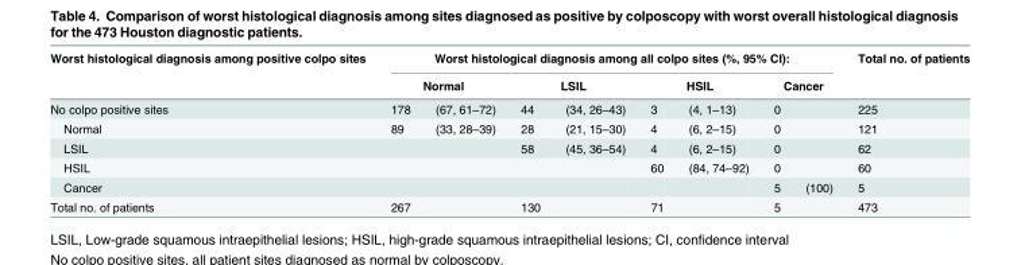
<table><thead><tr><td rowspan="3">Worst histological diagnosis among positive colpo sites No colpo positive sites</td><td colspan="8">Worst histological diagnosis among all colpo sites (%, 95% CI):</td><td rowspan="3">Total no. of patients 225</td></tr><tr><td colspan="2">Normal</td><td colspan="2">LSIL</td><td colspan="2">HSIL</td><td colspan="2">Cancer</td></tr><tr><td>178</td><td>(67, 61–72)</td><td>44</td><td>(34, 26–43)</td><td>3</td><td>(4, 1–13)</td><td>0</td><td></td></tr></thead><tbody><tr><td>Normal</td><td>89</td><td>(33, 28–39)</td><td>28</td><td>(21, 15–30)</td><td>4</td><td>(6, 2–15)</td><td>0</td><td></td><td>121</td></tr><tr><td>LSIL</td><td></td><td></td><td>58</td><td>(45, 36–54)</td><td>4</td><td>(6, 2–15)</td><td>0</td><td></td><td>62</td></tr><tr><td>HSIL</td><td></td><td></td><td></td><td></td><td>60</td><td>(84, 74–92)</td><td>0</td><td></td><td>60</td></tr><tr><td>Cancer</td><td></td><td></td><td></td><td></td><td></td><td></td><td>5</td><td>(100)</td><td>5</td></tr><tr><td>Total no. of patients</td><td>267</td><td></td><td>130</td><td></td><td>71</td><td></td><td>5</td><td></td><td>473</td></tr></tbody></table>